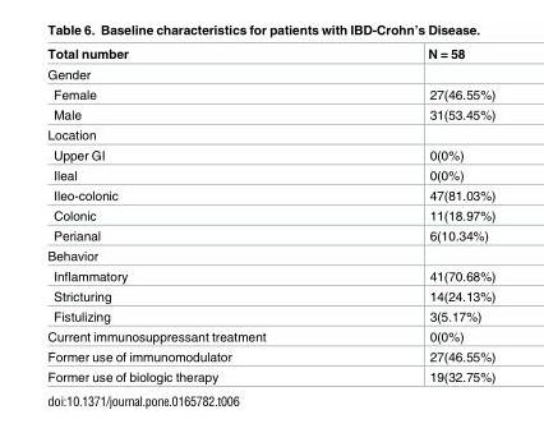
<table><thead><tr><td>Total number</td><td>N = 58</td></tr></thead><tbody><tr><td colspan="2">Gender</td></tr><tr><td>Female</td><td>27(46.55%)</td></tr><tr><td>Male</td><td>31(53.45%)</td></tr><tr><td colspan="2">Location</td></tr><tr><td>Upper GI</td><td>0(0%)</td></tr><tr><td>Ileal</td><td>0(0%)</td></tr><tr><td>Ileo-colonic</td><td>47(81.03%)</td></tr><tr><td>Colonic</td><td>11(18.97%)</td></tr><tr><td>Perianal</td><td>6(10.34%)</td></tr><tr><td colspan="2">Behavior</td></tr><tr><td>Inflammatory</td><td>41(70.68%)</td></tr><tr><td>Stricturing</td><td>14(24.13%)</td></tr><tr><td>Fistulizing</td><td>3(5.17%)</td></tr><tr><td>Current immunosuppressant treatment</td><td>0(0%)</td></tr><tr><td>Former use of immunomodulator</td><td>27(46.55%)</td></tr><tr><td>Former use of biologic therapy</td><td>19(32.75%)</td></tr></tbody></table>